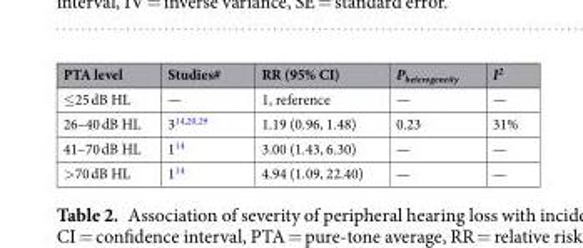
<table><thead><tr><td>PTA level</td><td>Studies#</td><td>RR (95% CI)</td><td>P<sub>heterogeneity</sub></td><td>I<sup>2</sup></td></tr></thead><tbody><tr><td>≤25 dB HL</td><td>—</td><td>1, reference</td><td>—</td><td>—</td></tr><tr><td>26–40 dB HL</td><td>3<sup>14,20,29</sup></td><td>1.19 (0.96, 1.48)</td><td>0.23</td><td>31%</td></tr><tr><td>41–70 dB HL</td><td>1<sup>14</sup></td><td>3.00 (1.43, 6.30)</td><td>—</td><td>—</td></tr><tr><td>&gt;70 dB HL</td><td>1<sup>14</sup></td><td>4.94 (1.09, 22.40)</td><td>—</td><td>—</td></tr></tbody></table>